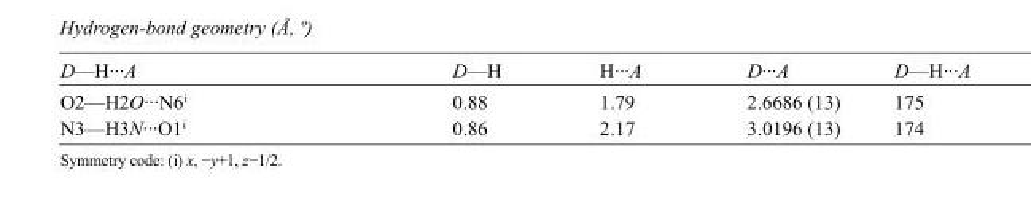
<table><tbody><tr><td>D—H···A</td><td>D—H</td><td>H···A</td><td>D···A</td><td>D—H···A</td></tr><tr><td>O2—H2O···N6<sup>i</sup></td><td>0.88</td><td>1.79</td><td>2.6686 (13)</td><td>175</td></tr><tr><td>N3—H3N···O1<sup>i</sup></td><td>0.86</td><td>2.17</td><td>3.0196 (13)</td><td>174</td></tr></tbody></table>